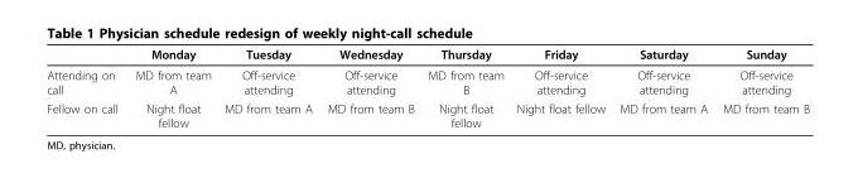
<table><thead><tr><td></td><td>Monday</td><td>Tuesday</td><td>Wednesday</td><td>Thursday</td><td>Friday</td><td>Saturday</td><td>Sunday</td></tr></thead><tbody><tr><td>Attending on call</td><td>MD from team A</td><td>Off-service attending</td><td>Off-service attending</td><td>MD from team B</td><td>Off-service attending</td><td>Off-service attending</td><td>Off-service attending</td></tr><tr><td>Fellow on call</td><td>Night float fellow</td><td>MD from team A</td><td>MD from team B</td><td>Night float fellow</td><td>Night float fellow</td><td>MD from team A</td><td>MD from team B</td></tr></tbody></table>